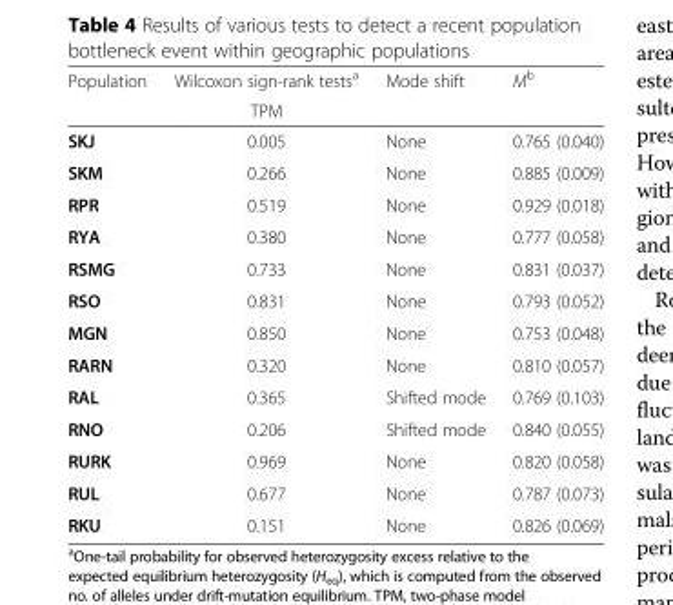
<table><thead><tr><td rowspan="2">Population</td><td rowspan="2">Wilcoxon sign-rank tests<sup>a</sup> TPM</td><td rowspan="2">Mode shift</td><td rowspan="2">M<sup>b</sup></td></tr><tr></tr></thead><tbody><tr><td>SKJ</td><td>0.005</td><td>None</td><td>0.765 (0.040)</td></tr><tr><td>SKM</td><td>0.266</td><td>None</td><td>0.885 (0.009)</td></tr><tr><td>RPR</td><td>0.519</td><td>None</td><td>0.929 (0.018)</td></tr><tr><td>RYA</td><td>0.380</td><td>None</td><td>0.777 (0.058)</td></tr><tr><td>RSMG</td><td>0.733</td><td>None</td><td>0.831 (0.037)</td></tr><tr><td>RSO</td><td>0.831</td><td>None</td><td>0.793 (0.052)</td></tr><tr><td>MGN</td><td>0.850</td><td>None</td><td>0.753 (0.048)</td></tr><tr><td>RARN</td><td>0.320</td><td>None</td><td>0.810 (0.057)</td></tr><tr><td>RAL</td><td>0.365</td><td>Shifted mode</td><td>0.769 (0.103)</td></tr><tr><td>RNO</td><td>0.206</td><td>Shifted mode</td><td>0.840 (0.055)</td></tr><tr><td>RURK</td><td>0.969</td><td>None</td><td>0.820 (0.058)</td></tr><tr><td>RUL</td><td>0.677</td><td>None</td><td>0.787 (0.073)</td></tr><tr><td>RKU</td><td>0.151</td><td>None</td><td>0.826 (0.069)</td></tr></tbody></table>